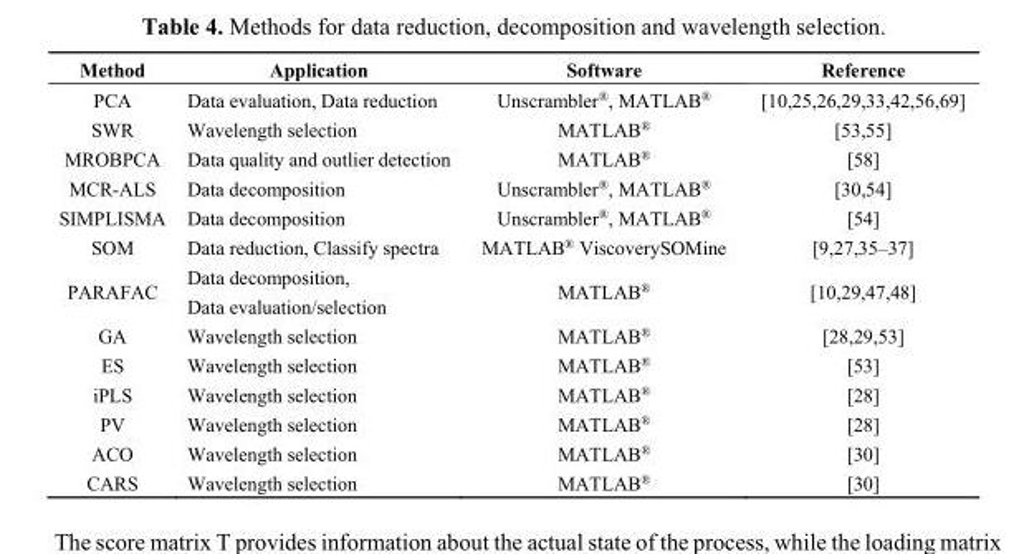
<table><thead><tr><td>Method</td><td>Application</td><td>Software</td><td>Reference</td></tr></thead><tbody><tr><td>PCA</td><td>Data evaluation, Data reduction</td><td>Unscrambler<sup>®</sup>, MATLAB<sup>®</sup></td><td>[10,25,26,29,33,42,56,69]</td></tr><tr><td>SWR</td><td>Wavelength selection</td><td>MATLAB<sup>®</sup></td><td>[53,55]</td></tr><tr><td>MROBPCA</td><td>Data quality and outlier detection</td><td>MATLAB<sup>®</sup></td><td>[58]</td></tr><tr><td>MCR-ALS</td><td>Data decomposition</td><td>Unscrambler<sup>®</sup>, MATLAB<sup>®</sup></td><td>[30,54]</td></tr><tr><td>SIMPLISMA</td><td>Data decomposition</td><td>Unscrambler<sup>®</sup>, MATLAB<sup>®</sup></td><td>[54]</td></tr><tr><td>SOM</td><td>Data reduction, Classify spectra</td><td>MATLAB<sup>®</sup> ViscoverySOMine</td><td>[9,27,35–37]</td></tr><tr><td>PARAFAC</td><td>Data decomposition, Data evaluation/selection</td><td>MATLAB<sup>®</sup></td><td>[10,29,47,48]</td></tr><tr><td>GA</td><td>Wavelength selection</td><td>MATLAB<sup>®</sup></td><td>[28,29,53]</td></tr><tr><td>ES</td><td>Wavelength selection</td><td>MATLAB<sup>®</sup></td><td>[53]</td></tr><tr><td>iPLS</td><td>Wavelength selection</td><td>MATLAB<sup>®</sup></td><td>[28]</td></tr><tr><td>PV</td><td>Wavelength selection</td><td>MATLAB<sup>®</sup></td><td>[28]</td></tr><tr><td>ACO</td><td>Wavelength selection</td><td>MATLAB<sup>®</sup></td><td>[30]</td></tr><tr><td>CARS</td><td>Wavelength selection</td><td>MATLAB<sup>®</sup></td><td>[30]</td></tr></tbody></table>